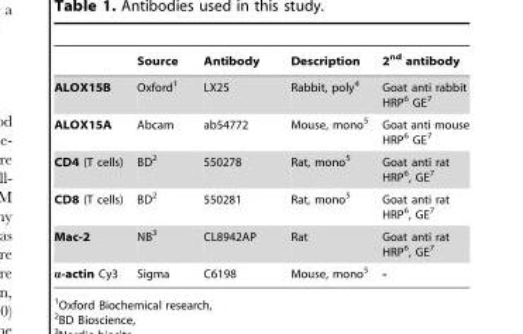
<table><thead><tr><td></td><td>Source</td><td>Antibody</td><td>Description</td><td>2<sup>nd</sup> antibody</td></tr></thead><tbody><tr><td>ALOX15B</td><td>Oxford<sup>1</sup></td><td>LX25</td><td>Rabbit, poly<sup>4</sup></td><td>Goat anti rabbit HRP<sup>6</sup> GE<sup>7</sup></td></tr><tr><td>ALOX15A</td><td>Abcam</td><td>ab54772</td><td>Mouse, mono<sup>5</sup></td><td>Goat anti mouse HRP<sup>6</sup> GE<sup>7</sup></td></tr><tr><td>CD4 (T cells)</td><td>BD<sup>2</sup></td><td>550278</td><td>Rat, mono<sup>5</sup></td><td>Goat anti rat HRP<sup>6</sup>, GE<sup>7</sup></td></tr><tr><td>CD8 (T cells)</td><td>BD<sup>2</sup></td><td>550281</td><td>Rat, mono<sup>5</sup></td><td>Goat anti rat HRP<sup>6</sup>, GE<sup>7</sup></td></tr><tr><td>Mac-2</td><td>NB<sup>3</sup></td><td>CL8942AP</td><td>Rat</td><td>Goat anti rat HRP<sup>6</sup>, GE<sup>7</sup></td></tr><tr><td>α-actin Cy3</td><td>Sigma</td><td>C6198</td><td>Mouse, mono<sup>5</sup></td><td>-</td></tr></tbody></table>